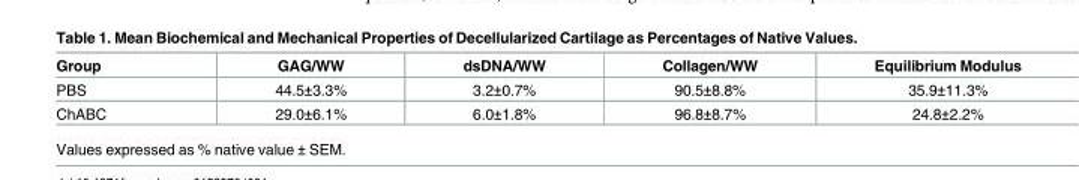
<table><thead><tr><td>Group</td><td>GAG/WW</td><td>dsDNA/WW</td><td>Collagen/WW</td><td>Equilibrium Modulus</td></tr></thead><tbody><tr><td>PBS</td><td>44.5±3.3%</td><td>3.2±0.7%</td><td>90.5±8.8%</td><td>35.9±11.3%</td></tr><tr><td>ChABC</td><td>29.0±6.1%</td><td>6.0±1.8%</td><td>96.8±8.7%</td><td>24.8±2.2%</td></tr></tbody></table>